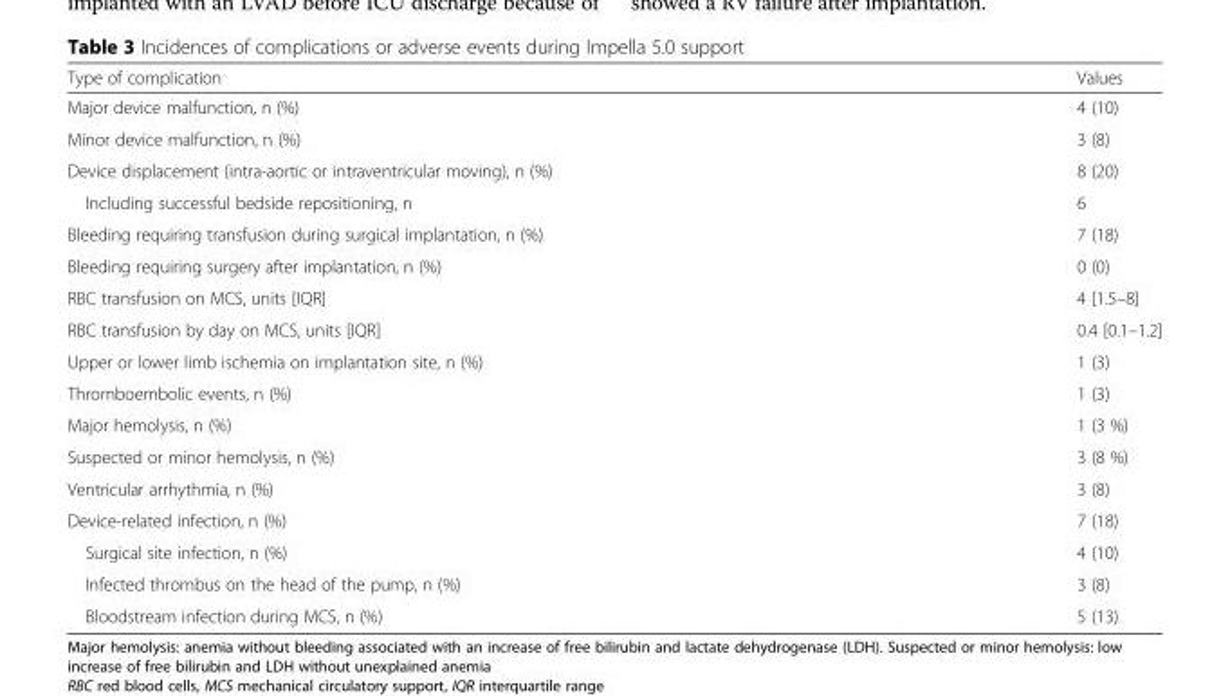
<table><thead><tr><td>Type of complication</td><td>Values</td></tr></thead><tbody><tr><td>Major device malfunction, n (%)</td><td>4 (10)</td></tr><tr><td>Minor device malfunction, n (%)</td><td>3 (8)</td></tr><tr><td>Device displacement (intra-aortic or intraventricular moving), n (%)</td><td>8 (20)</td></tr><tr><td>Including successful bedside repositioning, n</td><td>6</td></tr><tr><td>Bleeding requiring transfusion during surgical implantation, n (%)</td><td>7 (18)</td></tr><tr><td>Bleeding requiring surgery after implantation, n (%)</td><td>0 (0)</td></tr><tr><td>RBC transfusion on MCS, units [IQR]</td><td>4 [1.5–8]</td></tr><tr><td>RBC transfusion by day on MCS, units [IQR]</td><td>0.4 [0.1–1.2]</td></tr><tr><td>Upper or lower limb ischemia on implantation site, n (%)</td><td>1 (3)</td></tr><tr><td>Thromboembolic events, n (%)</td><td>1 (3)</td></tr><tr><td>Major hemolysis, n (%)</td><td>1 (3 %)</td></tr><tr><td>Suspected or minor hemolysis, n (%)</td><td>3 (8 %)</td></tr><tr><td>Ventricular arrhythmia, n (%)</td><td>3 (8)</td></tr><tr><td>Device-related infection, n (%)</td><td>7 (18)</td></tr><tr><td>Surgical site infection, n (%)</td><td>4 (10)</td></tr><tr><td>Infected thrombus on the head of the pump, n (%)</td><td>3 (8)</td></tr><tr><td>Bloodstream infection during MCS, n (%)</td><td>5 (13)</td></tr></tbody></table>